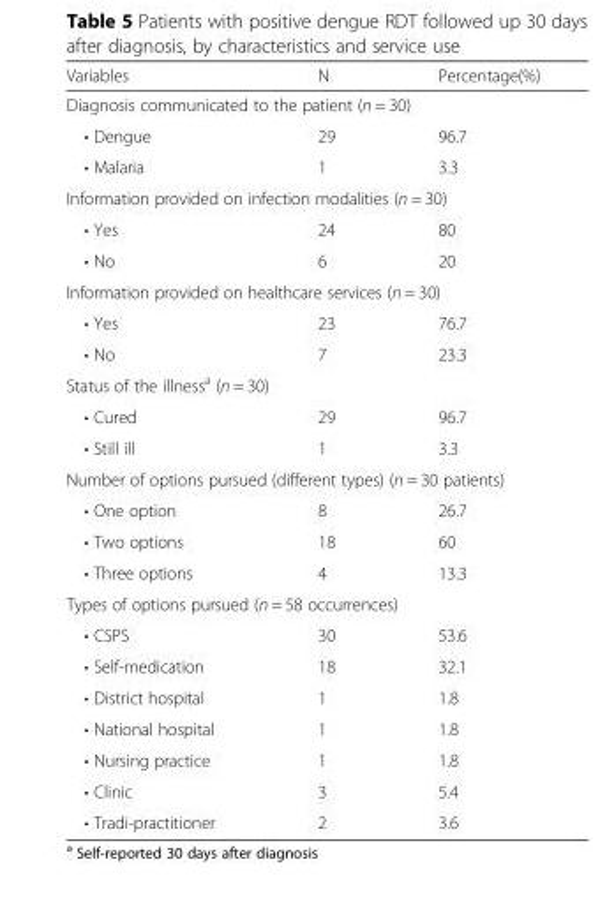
<table><thead><tr><td>Variables</td><td>N</td><td>Percentage(%)</td></tr></thead><tbody><tr><td colspan="3">Diagnosis communicated to the patient (n = 30)</td></tr><tr><td>• Dengue</td><td>29</td><td>96.7</td></tr><tr><td>• Malaria</td><td>1</td><td>3.3</td></tr><tr><td colspan="3">Information provided on infection modalities (n = 30)</td></tr><tr><td>• Yes</td><td>24</td><td>80</td></tr><tr><td>• No</td><td>6</td><td>20</td></tr><tr><td colspan="3">Information provided on healthcare services (n = 30)</td></tr><tr><td>• Yes</td><td>23</td><td>76.7</td></tr><tr><td>• No</td><td>7</td><td>23.3</td></tr><tr><td colspan="3">Status of the illness<sup>a</sup> (n = 30)</td></tr><tr><td>• Cured</td><td>29</td><td>96.7</td></tr><tr><td>• Still ill</td><td>1</td><td>3.3</td></tr><tr><td colspan="3">Number of options pursued (different types) (n = 30 patients)</td></tr><tr><td>• One option</td><td>8</td><td>26.7</td></tr><tr><td>• Two options</td><td>18</td><td>60</td></tr><tr><td>• Three options</td><td>4</td><td>13.3</td></tr><tr><td colspan="3">Types of options pursued (n = 58 occurrences)</td></tr><tr><td>• CSPS</td><td>30</td><td>53.6</td></tr><tr><td>• Self-medication</td><td>18</td><td>32.1</td></tr><tr><td>• District hospital</td><td>1</td><td>1.8</td></tr><tr><td>• National hospital</td><td>1</td><td>1.8</td></tr><tr><td>• Nursing practice</td><td>1</td><td>1.8</td></tr><tr><td>• Clinic</td><td>3</td><td>5.4</td></tr><tr><td>• Tradi-practitioner</td><td>2</td><td>3.6</td></tr></tbody></table>